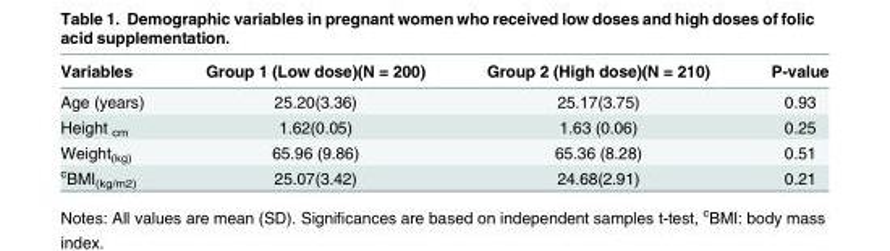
<table><thead><tr><td>Variables</td><td>Group 1 (Low dose)(N = 200)</td><td>Group 2 (High dose)(N = 210)</td><td>P-value</td></tr></thead><tbody><tr><td>Age (years)</td><td>25.20(3.36)</td><td>25.17(3.75)</td><td>0.93</td></tr><tr><td>Height <sub>cm</sub></td><td>1.62(0.05)</td><td>1.63 (0.06)</td><td>0.25</td></tr><tr><td>Weight<sub>(kg)</sub></td><td>65.96 (9.86)</td><td>65.36 (8.28)</td><td>0.51</td></tr><tr><td><sup>c</sup>BMI<sub>(kg/m2)</sub></td><td>25.07(3.42)</td><td>24.68(2.91)</td><td>0.21</td></tr></tbody></table>